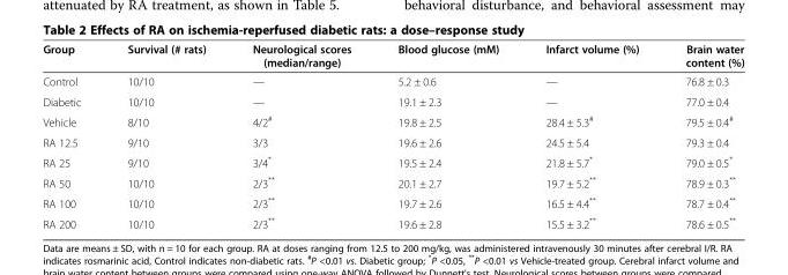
<table><thead><tr><td>Group</td><td>Survival (# rats)</td><td>Neurological scores (median/range)</td><td>Blood glucose (mM)</td><td>Infarct volume (%)</td><td>Brain water content (%)</td></tr></thead><tbody><tr><td>Control</td><td>10/10</td><td>—</td><td>5.2 ± 0.6</td><td>—</td><td>76.8 ± 0.3</td></tr><tr><td>Diabetic</td><td>10/10</td><td>—</td><td>19.1 ± 2.3</td><td>—</td><td>77.0 ± 0.4</td></tr><tr><td>Vehicle</td><td>8/10</td><td>4/2<sup>#</sup></td><td>19.8 ± 2.5</td><td>28.4 ± 5.3<sup>#</sup></td><td>79.5 ± 0.4<sup>#</sup></td></tr><tr><td>RA 12.5</td><td>9/10</td><td>3/3</td><td>19.6 ± 2.6</td><td>24.5 ± 5.4</td><td>79.3 ± 0.4</td></tr><tr><td>RA 25</td><td>9/10</td><td>3/4*</td><td>19.5 ± 2.4</td><td>21.8 ± 5.7*</td><td>79.0 ± 0.5*</td></tr><tr><td>RA 50</td><td>10/10</td><td>2/3**</td><td>20.1 ± 2.7</td><td>19.7 ± 5.2**</td><td>78.9 ± 0.3**</td></tr><tr><td>RA 100</td><td>10/10</td><td>2/3**</td><td>19.7 ± 2.6</td><td>16.5 ± 4.4**</td><td>78.7 ± 0.4**</td></tr><tr><td>RA 200</td><td>10/10</td><td>2/3**</td><td>19.6 ± 2.8</td><td>15.5 ± 3.2**</td><td>78.6 ± 0.5**</td></tr></tbody></table>